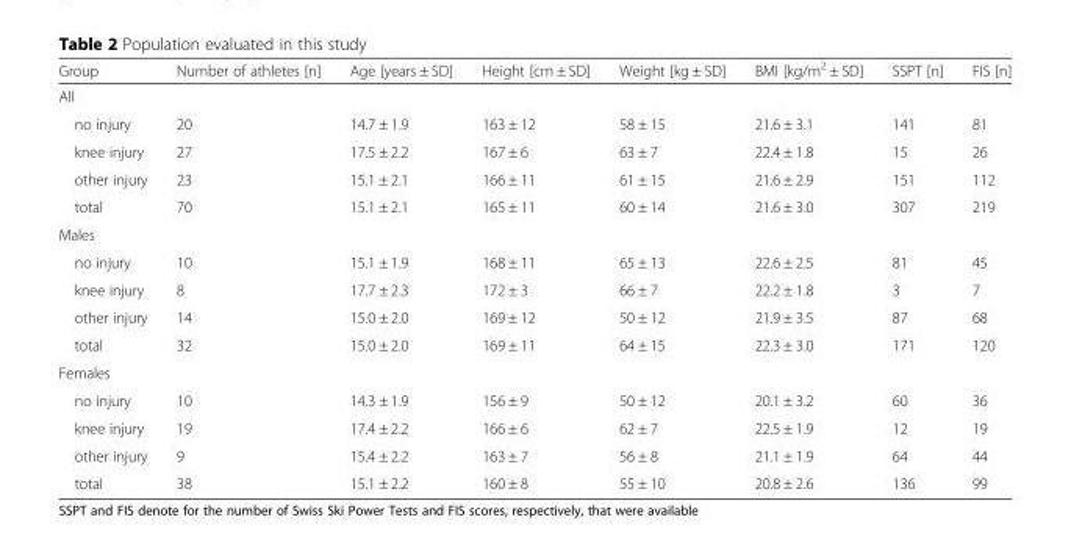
<table><thead><tr><td>Group</td><td>Number of athletes [n]</td><td>Age [years ± SD]</td><td>Height [cm ± SD]</td><td>Weight [kg ± SD]</td><td>BMI [kg/m<sup>2</sup> ± SD]</td><td>SSPT [n]</td><td>FIS [n]</td></tr></thead><tbody><tr><td colspan="8">All</td></tr><tr><td>no injury</td><td>20</td><td>14.7 ± 1.9</td><td>163 ± 12</td><td>58 ± 15</td><td>21.6 ± 3.1</td><td>141</td><td>81</td></tr><tr><td>knee injury</td><td>27</td><td>17.5 ± 2.2</td><td>167 ± 6</td><td>63 ± 7</td><td>22.4 ± 1.8</td><td>15</td><td>26</td></tr><tr><td>other injury</td><td>23</td><td>15.1 ± 2.1</td><td>166 ± 11</td><td>61 ± 15</td><td>21.6 ± 2.9</td><td>151</td><td>112</td></tr><tr><td>total</td><td>70</td><td>15.1 ± 2.1</td><td>165 ± 11</td><td>60 ± 14</td><td>21.6 ± 3.0</td><td>307</td><td>219</td></tr><tr><td colspan="8">Males</td></tr><tr><td>no injury</td><td>10</td><td>15.1 ± 1.9</td><td>168 ± 11</td><td>65 ± 13</td><td>22.6 ± 2.5</td><td>81</td><td>45</td></tr><tr><td>knee injury</td><td>8</td><td>17.7 ± 2.3</td><td>172 ± 3</td><td>66 ± 7</td><td>22.2 ± 1.8</td><td>3</td><td>7</td></tr><tr><td>other injury</td><td>14</td><td>15.0 ± 2.0</td><td>169 ± 12</td><td>50 ± 12</td><td>21.9 ± 3.5</td><td>87</td><td>68</td></tr><tr><td>total</td><td>32</td><td>15.0 ± 2.0</td><td>169 ± 11</td><td>64 ± 15</td><td>22.3 ± 3.0</td><td>171</td><td>120</td></tr><tr><td colspan="8">Females</td></tr><tr><td>no injury</td><td>10</td><td>14.3 ± 1.9</td><td>156 ± 9</td><td>50 ± 12</td><td>20.1 ± 3.2</td><td>60</td><td>36</td></tr><tr><td>knee injury</td><td>19</td><td>17.4 ± 2.2</td><td>166 ± 6</td><td>62 ± 7</td><td>22.5 ± 1.9</td><td>12</td><td>19</td></tr><tr><td>other injury</td><td>9</td><td>15.4 ± 2.2</td><td>163 ± 7</td><td>56 ± 8</td><td>21.1 ± 1.9</td><td>64</td><td>44</td></tr><tr><td>total</td><td>38</td><td>15.1 ± 2.2</td><td>160 ± 8</td><td>55 ± 10</td><td>20.8 ± 2.6</td><td>136</td><td>99</td></tr></tbody></table>